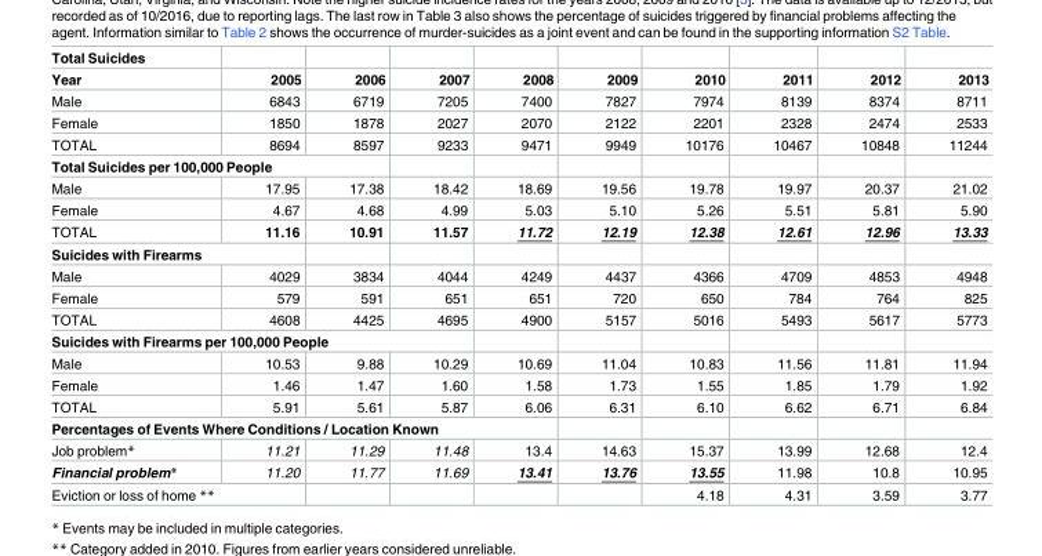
<table><thead><tr><td rowspan="2">Total Suicides Year</td><td rowspan="2">2005</td><td rowspan="2">2006</td><td rowspan="2">2007</td><td rowspan="2">2008</td><td rowspan="2">2009</td><td rowspan="2">2010</td><td rowspan="2">2011</td><td rowspan="2">2012</td><td rowspan="2">2013</td></tr><tr></tr></thead><tbody><tr><td>Male</td><td>6843</td><td>6719</td><td>7205</td><td>7400</td><td>7827</td><td>7974</td><td>8139</td><td>8374</td><td>8711</td></tr><tr><td>Female</td><td>1850</td><td>1878</td><td>2027</td><td>2070</td><td>2122</td><td>2201</td><td>2328</td><td>2474</td><td>2533</td></tr><tr><td>TOTAL</td><td>8694</td><td>8597</td><td>9233</td><td>9471</td><td>9949</td><td>10176</td><td>10467</td><td>10848</td><td>11244</td></tr><tr><td colspan="10">Total Suicides per 100,000 People</td></tr><tr><td>Male</td><td>17.95</td><td>17.38</td><td>18.42</td><td>18.69</td><td>19.56</td><td>19.78</td><td>19.97</td><td>20.37</td><td>21.02</td></tr><tr><td>Female</td><td>4.67</td><td>4.68</td><td>4.99</td><td>5.03</td><td>5.10</td><td>5.26</td><td>5.51</td><td>5.81</td><td>5.90</td></tr><tr><td>TOTAL</td><td>11.16</td><td>10.91</td><td>11.57</td><td>11.72</td><td>12.19</td><td>12.38</td><td>12.61</td><td>12.96</td><td>13.33</td></tr><tr><td colspan="10">Suicides with Firearms</td></tr><tr><td>Male</td><td>4029</td><td>3834</td><td>4044</td><td>4249</td><td>4437</td><td>4366</td><td>4709</td><td>4853</td><td>4948</td></tr><tr><td>Female</td><td>579</td><td>591</td><td>651</td><td>651</td><td>720</td><td>650</td><td>784</td><td>764</td><td>825</td></tr><tr><td>TOTAL</td><td>4608</td><td>4425</td><td>4695</td><td>4900</td><td>5157</td><td>5016</td><td>5493</td><td>5617</td><td>5773</td></tr><tr><td colspan="10">Suicides with Firearms per 100,000 People</td></tr><tr><td>Male</td><td>10.53</td><td>9.88</td><td>10.29</td><td>10.69</td><td>11.04</td><td>10.83</td><td>11.56</td><td>11.81</td><td>11.94</td></tr><tr><td>Female</td><td>1.46</td><td>1.47</td><td>1.60</td><td>1.58</td><td>1.73</td><td>1.55</td><td>1.85</td><td>1.79</td><td>1.92</td></tr><tr><td>TOTAL</td><td>5.91</td><td>5.61</td><td>5.87</td><td>6.06</td><td>6.31</td><td>6.10</td><td>6.62</td><td>6.71</td><td>6.84</td></tr><tr><td colspan="10">Percentages of Events Where Conditions / Location Known</td></tr><tr><td>Job problem*</td><td>11.21</td><td>11.29</td><td>11.48</td><td>13.4</td><td>14.63</td><td>15.37</td><td>13.99</td><td>12.68</td><td>12.4</td></tr><tr><td>Financial problem*</td><td>11.20</td><td>11.77</td><td>11.69</td><td>13.41</td><td>13.76</td><td>13.55</td><td>11.98</td><td>10.8</td><td>10.95</td></tr><tr><td colspan="2">Eviction or loss of home **</td><td></td><td></td><td></td><td></td><td>4.18</td><td>4.31</td><td>3.59</td><td>3.77</td></tr></tbody></table>